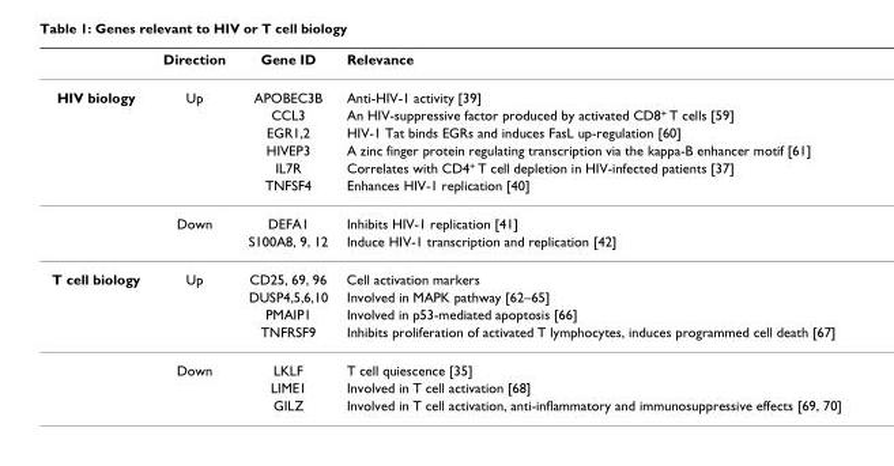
<table><thead><tr><td></td><td>Direction</td><td>Gene ID</td><td>Relevance</td></tr></thead><tbody><tr><td rowspan="8">HIV biology</td><td>Up</td><td>APOBEC3B</td><td>Anti-HIV-1 activity [39]</td></tr><tr><td></td><td>CCL3</td><td>An HIV-suppressive factor produced by activated CD8<sup>+</sup> T cells [59]</td></tr><tr><td></td><td>EGR1,2</td><td>HIV-1 Tat binds EGRs and induces FasL up-regulation [60]</td></tr><tr><td></td><td>HIVEP3</td><td>A zinc finger protein regulating transcription via the kappa-B enhancer motif [61]</td></tr><tr><td></td><td>IL7R</td><td>Correlates with CD4<sup>+</sup> T cell depletion in HIV-infected patients [37]</td></tr><tr><td></td><td>TNFSF4</td><td>Enhances HIV-1 replication [40]</td></tr><tr><td>Down</td><td>DEFA1</td><td>Inhibits HIV-1 replication [41]</td></tr><tr><td></td><td>S100A8, 9, 12</td><td>Induce HIV-1 transcription and replication [42]</td></tr><tr><td rowspan="7">T cell biology</td><td>Up</td><td>CD25, 69, 96</td><td>Cell activation markers</td></tr><tr><td></td><td>DUSP4,5,6,10</td><td>Involved in MAPK pathway [62–65]</td></tr><tr><td></td><td>PMAIP1</td><td>Involved in p53-mediated apoptosis [66]</td></tr><tr><td></td><td>TNFRSF9</td><td>Inhibits proliferation of activated T lymphocytes, induces programmed cell death [67]</td></tr><tr><td>Down</td><td>LKLF</td><td>T cell quiescence [35]</td></tr><tr><td></td><td>LIME1</td><td>Involved in T cell activation [68]</td></tr><tr><td></td><td>GILZ</td><td>Involved in T cell activation, anti-inflammatory and immunosuppressive effects [69, 70]</td></tr></tbody></table>